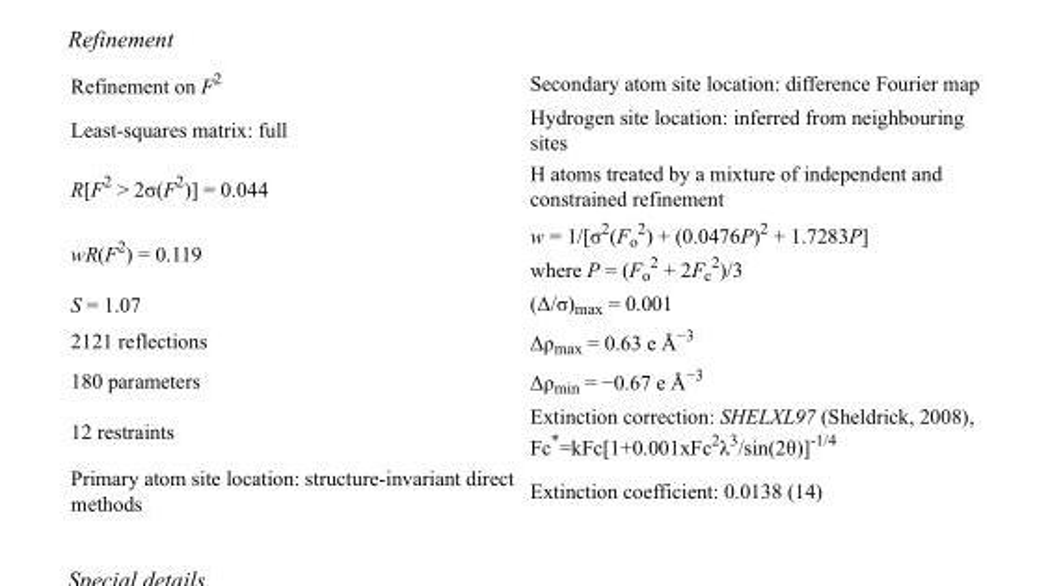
<table><tbody><tr><td>Refinement on F<sup>2</sup></td><td>Secondary atom site location: difference Fourier map</td></tr><tr><td>Least-squares matrix: full</td><td>Hydrogen site location: inferred from neighbouring sites</td></tr><tr><td>R[F<sup>2</sup> &gt; 2σ(F<sup>2</sup>)] = 0.044</td><td>H atoms treated by a mixture of independent and constrained refinement</td></tr><tr><td>wR(F<sup>2</sup>) = 0.119</td><td>w = 1/[σ<sup>2</sup>(F<sub>o</sub> <sup>2</sup>) + (0.0476P)<sup>2</sup> + 1.7283P] where P = (F<sub>o</sub> <sup>2</sup> + 2F<sub>c</sub> <sup>2</sup>)/3</td></tr><tr><td>S = 1.07</td><td>(Δ/σ)<sub>max</sub> = 0.001</td></tr><tr><td>2121 reflections</td><td>Δρ<sub>max</sub> = 0.63 e Å<sup>−3</sup></td></tr><tr><td>180 parameters</td><td>Δρ<sub>min</sub> = −0.67 e Å<sup>−3</sup></td></tr><tr><td>12 restraints</td><td>Extinction correction: SHELXL97 (Sheldrick, 2008), Fc*=kFc[1+0.001xFc<sup>2</sup>λ<sup>3</sup>/sin(2θ)]<sup>-1/4</sup></td></tr><tr><td>Primary atom site location: structure-invariant direct methods</td><td>Extinction coefficient: 0.0138 (14)</td></tr></tbody></table>